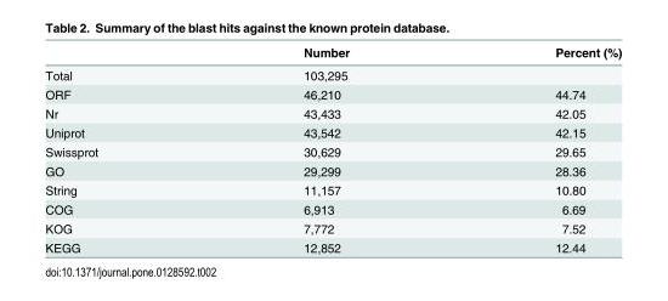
<table><thead><tr><td></td><td>Number</td><td>Percent (%)</td></tr></thead><tbody><tr><td>Total</td><td>103,295</td><td></td></tr><tr><td>ORF</td><td>46,210</td><td>44.74</td></tr><tr><td>Nr</td><td>43,433</td><td>42.05</td></tr><tr><td>Uniprot</td><td>43,542</td><td>42.15</td></tr><tr><td>Swissprot</td><td>30,629</td><td>29.65</td></tr><tr><td>GO</td><td>29,299</td><td>28.36</td></tr><tr><td>String</td><td>11,157</td><td>10.80</td></tr><tr><td>COG</td><td>6,913</td><td>6.69</td></tr><tr><td>KOG</td><td>7,772</td><td>7.52</td></tr><tr><td>KEGG</td><td>12,852</td><td>12.44</td></tr></tbody></table>